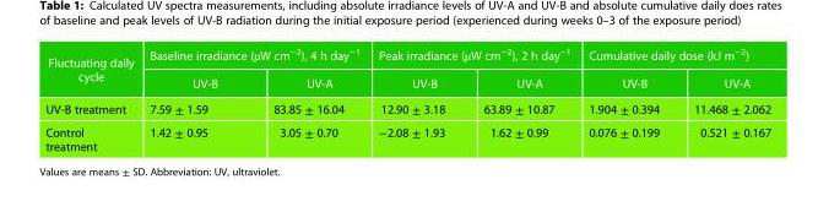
<table><thead><tr><td rowspan="2">Fluctuating daily cycle</td><td colspan="2">Baseline irradiance (µW cm<sup>−2</sup>), 4 h day<sup>−1</sup></td><td colspan="2">Peak irradiance (µW cm<sup>−2</sup>), 2 h day<sup>−1</sup></td><td colspan="2">Cumulative daily dose (kJ m<sup>−2</sup>)</td></tr><tr><td>UV-B</td><td>UV-A</td><td>UV-B</td><td>UV-A</td><td>UV-B</td><td>UV-A</td></tr></thead><tbody><tr><td>UV-B treatment</td><td>7.59 ± 1.59</td><td>83.85 ± 16.04</td><td>12.90 ± 3.18</td><td>63.89 ± 10.87</td><td>1.904 ± 0.394</td><td>11.468 ± 2.062</td></tr><tr><td>Control treatment</td><td>1.42 ± 0.95</td><td>3.05 ± 0.70</td><td>−2.08 ± 1.93</td><td>1.62 ± 0.99</td><td>0.076 ± 0.199</td><td>0.521 ± 0.167</td></tr></tbody></table>